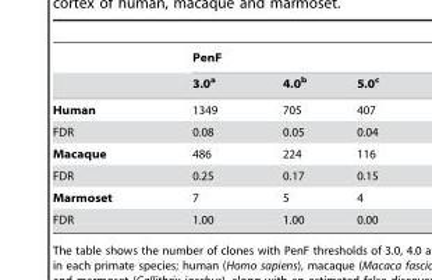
<table><thead><tr><td rowspan="2"></td><td colspan="3">PenF</td></tr><tr><td>3.0<sup>a</sup></td><td>4.0<sup>b</sup></td><td>5.0<sup>c</sup></td></tr></thead><tbody><tr><td>Human</td><td>1349</td><td>705</td><td>407</td></tr><tr><td>FDR</td><td>0.08</td><td>0.05</td><td>0.04</td></tr><tr><td>Macaque</td><td>486</td><td>224</td><td>116</td></tr><tr><td>FDR</td><td>0.25</td><td>0.17</td><td>0.15</td></tr><tr><td>Marmoset</td><td>7</td><td>5</td><td>4</td></tr><tr><td>FDR</td><td>1.00</td><td>1.00</td><td>0.00</td></tr></tbody></table>